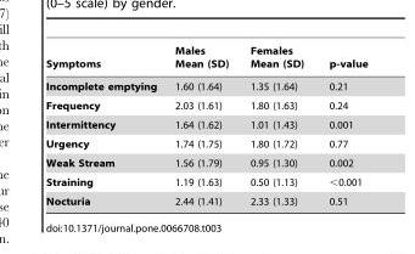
<table><thead><tr><td>Symptoms</td><td>Males Mean (SD)</td><td>Females Mean (SD)</td><td>p-value</td></tr></thead><tbody><tr><td>Incomplete emptying</td><td>1.60 (1.64)</td><td>1.35 (1.64)</td><td>0.21</td></tr><tr><td>Frequency</td><td>2.03 (1.61)</td><td>1.80 (1.63)</td><td>0.24</td></tr><tr><td>Intermittency</td><td>1.64 (1.62)</td><td>1.01 (1.43)</td><td>0.001</td></tr><tr><td>Urgency</td><td>1.74 (1.75)</td><td>1.80 (1.72)</td><td>0.77</td></tr><tr><td>Weak Stream</td><td>1.56 (1.79)</td><td>0.95 (1.30)</td><td>0.002</td></tr><tr><td>Straining</td><td>1.19 (1.63)</td><td>0.50 (1.13)</td><td>&lt;0.001</td></tr><tr><td>Nocturia</td><td>2.44 (1.41)</td><td>2.33 (1.33)</td><td>0.51</td></tr></tbody></table>